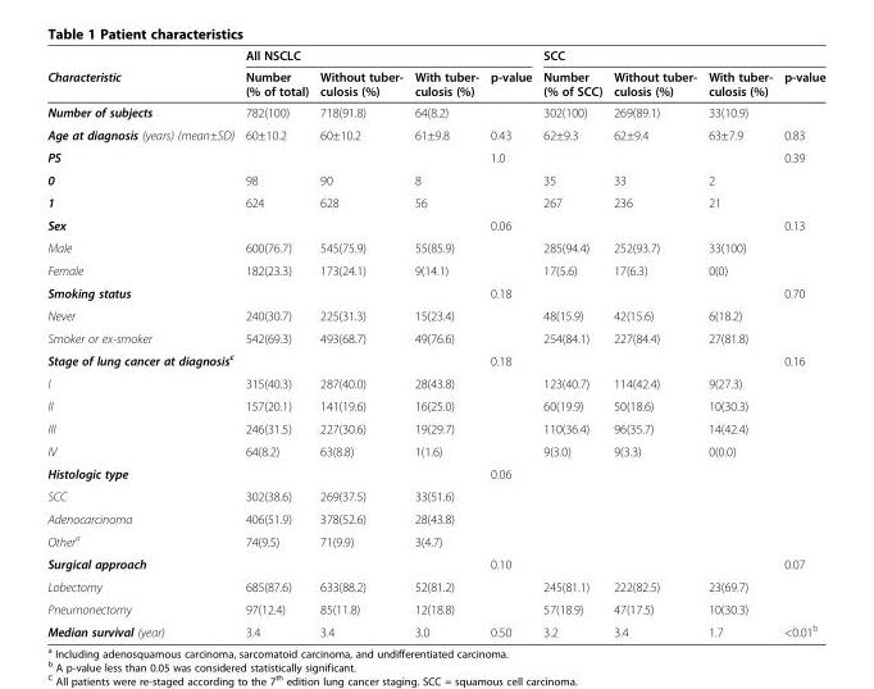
<table><thead><tr><td rowspan="2">Characteristic</td><td colspan="4">All NSCLC</td><td colspan="4">SCC</td></tr><tr><td>Number (% of total)</td><td>Without tuber- culosis (%)</td><td>With tuber- culosis (%)</td><td>p-value</td><td>Number (% of SCC)</td><td>Without tuber- culosis (%)</td><td>With tuber- culosis (%)</td><td>p-value</td></tr></thead><tbody><tr><td>Number of subjects</td><td>782(100)</td><td>718(91.8)</td><td>64(8.2)</td><td></td><td>302(100)</td><td>269(89.1)</td><td>33(10.9)</td><td></td></tr><tr><td>Age at diagnosis (years) (mean±SD)</td><td>60±10.2</td><td>60±10.2</td><td>61±9.8</td><td>0.43</td><td>62±9.3</td><td>62±9.4</td><td>63±7.9</td><td>0.83</td></tr><tr><td>PS</td><td></td><td></td><td></td><td>1.0</td><td></td><td></td><td></td><td>0.39</td></tr><tr><td>0</td><td>98</td><td>90</td><td>8</td><td rowspan="2"></td><td>35</td><td>33</td><td>2</td><td></td></tr><tr><td>1</td><td>624</td><td>628</td><td>56</td><td>267</td><td>236</td><td>21</td><td></td></tr><tr><td>Sex</td><td></td><td></td><td></td><td>0.06</td><td></td><td></td><td></td><td>0.13</td></tr><tr><td>Male</td><td>600(76.7)</td><td>545(75.9)</td><td>55(85.9)</td><td rowspan="2"></td><td>285(94.4)</td><td>252(93.7)</td><td>33(100)</td><td rowspan="2"></td></tr><tr><td>Female</td><td>182(23.3)</td><td>173(24.1)</td><td>9(14.1)</td><td>17(5.6)</td><td>17(6.3)</td><td>0(0)</td></tr><tr><td>Smoking status</td><td></td><td></td><td></td><td>0.18</td><td></td><td></td><td></td><td>0.70</td></tr><tr><td>Never</td><td>240(30.7)</td><td>225(31.3)</td><td>15(23.4)</td><td rowspan="2"></td><td>48(15.9)</td><td>42(15.6)</td><td>6(18.2)</td><td rowspan="2"></td></tr><tr><td>Smoker or ex-smoker</td><td>542(69.3)</td><td>493(68.7)</td><td>49(76.6)</td><td>254(84.1)</td><td>227(84.4)</td><td>27(81.8)</td></tr><tr><td colspan="4">Stage of lung cancer at diagnosis<sup>c</sup></td><td>0.18</td><td></td><td></td><td></td><td>0.16</td></tr><tr><td>I</td><td>315(40.3)</td><td>287(40.0)</td><td>28(43.8)</td><td rowspan="4"></td><td>123(40.7)</td><td>114(42.4)</td><td>9(27.3)</td><td rowspan="4"></td></tr><tr><td>II</td><td>157(20.1)</td><td>141(19.6)</td><td>16(25.0)</td><td>60(19.9)</td><td>50(18.6)</td><td>10(30.3)</td></tr><tr><td>III</td><td>246(31.5)</td><td>227(30.6)</td><td>19(29.7)</td><td>110(36.4)</td><td>96(35.7)</td><td>14(42.4)</td></tr><tr><td>IV</td><td>64(8.2)</td><td>63(8.8)</td><td>1(1.6)</td><td>9(3.0)</td><td>9(3.3)</td><td>0(0.0)</td></tr><tr><td>Histologic type</td><td></td><td></td><td></td><td>0.06</td><td></td><td></td><td></td><td></td></tr><tr><td>SCC</td><td>302(38.6)</td><td>269(37.5)</td><td>33(51.6)</td><td rowspan="3"></td><td></td><td></td><td></td><td></td></tr><tr><td>Adenocarcinoma</td><td>406(51.9)</td><td>378(52.6)</td><td>28(43.8)</td><td></td><td></td><td></td><td></td></tr><tr><td>Other<sup>a</sup></td><td>74(9.5)</td><td>71(9.9)</td><td>3(4.7)</td><td></td><td></td><td></td><td></td></tr><tr><td>Surgical approach</td><td></td><td></td><td></td><td>0.10</td><td></td><td></td><td></td><td>0.07</td></tr><tr><td>Lobectomy</td><td>685(87.6)</td><td>633(88.2)</td><td>52(81.2)</td><td rowspan="2"></td><td>245(81.1)</td><td>222(82.5)</td><td>23(69.7)</td><td rowspan="2"></td></tr><tr><td>Pneumonectomy</td><td>97(12.4)</td><td>85(11.8)</td><td>12(18.8)</td><td>57(18.9)</td><td>47(17.5)</td><td>10(30.3)</td></tr><tr><td>Median survival (year)</td><td>3.4</td><td>3.4</td><td>3.0</td><td>0.50</td><td>3.2</td><td>3.4</td><td>1.7</td><td>&lt;0.01<sup>b</sup></td></tr></tbody></table>